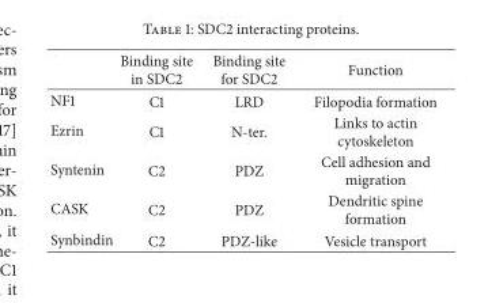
<table><thead><tr><td></td><td>Binding site in SDC2</td><td>Binding site for SDC2</td><td>Function</td></tr></thead><tbody><tr><td>NF1</td><td>C1</td><td>LRD</td><td>Filopodia formation</td></tr><tr><td>Ezrin</td><td>C1</td><td>N-ter.</td><td>Links to actin cytoskeleton</td></tr><tr><td>Syntenin</td><td>C2</td><td>PDZ</td><td>Cell adhesion and migration</td></tr><tr><td>CASK</td><td>C2</td><td>PDZ</td><td>Dendritic spine formation</td></tr><tr><td>Synbindin</td><td>C2</td><td>PDZ-like</td><td>Vesicle transport</td></tr></tbody></table>